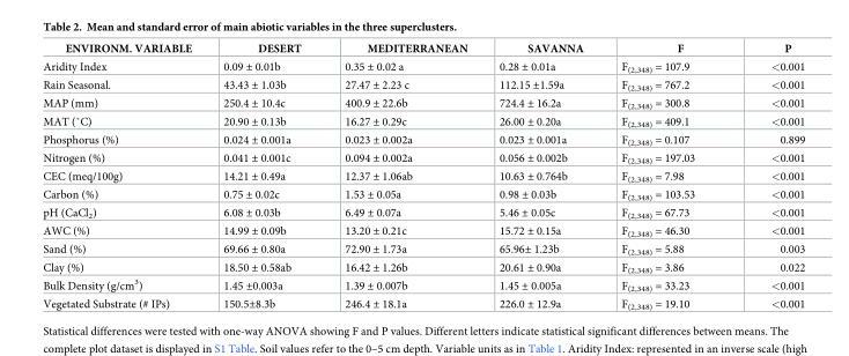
<table><thead><tr><td>ENVIRONM. VARIABLE</td><td>DESERT</td><td>MEDITERRANEAN</td><td>SAVANNA</td><td>F</td><td>P</td></tr></thead><tbody><tr><td>Aridity Index</td><td>0.09 ± 0.01b</td><td>0.35 ± 0.02 a</td><td>0.28 ± 0.01a</td><td>F<sub>(2,348)</sub> = 107.9</td><td>&lt;0.001</td></tr><tr><td>Rain Seasonal.</td><td>43.43 ± 1.03b</td><td>27.47 ± 2.23 c</td><td>112.15 ±1.59a</td><td>F<sub>(2,348)</sub> = 767.2</td><td>&lt;0.001</td></tr><tr><td>MAP (mm)</td><td>250.4 ± 10.4c</td><td>400.9 ± 22.6b</td><td>724.4 ± 16.2a</td><td>F<sub>(2,348)</sub> = 300.8</td><td>&lt;0.001</td></tr><tr><td>MAT (˚C)</td><td>20.90 ± 0.13b</td><td>16.27 ± 0.29c</td><td>26.00 ± 0.20a</td><td>F<sub>(2,348)</sub> = 409.1</td><td>&lt;0.001</td></tr><tr><td>Phosphorus (%)</td><td>0.024 ± 0.001a</td><td>0.023 ± 0.002a</td><td>0.023 ± 0.001a</td><td>F<sub>(2,348)</sub> = 0.107</td><td>0.899</td></tr><tr><td>Nitrogen (%)</td><td>0.041 ± 0.001c</td><td>0.094 ± 0.002a</td><td>0.056 ± 0.002b</td><td>F<sub>(2,348)</sub> = 197.03</td><td>&lt;0.001</td></tr><tr><td>CEC (meq/100g)</td><td>14.21 ± 0.49a</td><td>12.37 ± 1.06ab</td><td>10.63 ± 0.764b</td><td>F<sub>(2,348)</sub> = 7.98</td><td>&lt;0.001</td></tr><tr><td>Carbon (%)</td><td>0.75 ± 0.02c</td><td>1.53 ± 0.05a</td><td>0.98 ± 0.03b</td><td>F<sub>(2,348)</sub> = 103.53</td><td>&lt;0.001</td></tr><tr><td>pH (CaCl<sub>2</sub>)</td><td>6.08 ± 0.03b</td><td>6.49 ± 0.07a</td><td>5.46 ± 0.05c</td><td>F<sub>(2,348)</sub> = 67.73</td><td>&lt;0.001</td></tr><tr><td>AWC (%)</td><td>14.99 ± 0.09b</td><td>13.20 ± 0.21c</td><td>15.72 ± 0.15a</td><td>F<sub>(2,348)</sub> = 46.30</td><td>&lt;0.001</td></tr><tr><td>Sand (%)</td><td>69.66 ± 0.80a</td><td>72.90 ± 1.73a</td><td>65.96± 1.23b</td><td>F<sub>(2,348)</sub> = 5.88</td><td>0.003</td></tr><tr><td>Clay (%)</td><td>18.50 ± 0.58ab</td><td>16.42 ± 1.26b</td><td>20.61 ± 0.90a</td><td>F<sub>(2,348)</sub> = 3.86</td><td>0.022</td></tr><tr><td>Bulk Density (g/cm<sup>3</sup>)</td><td>1.45 ±0.003a</td><td>1.39 ± 0.007b</td><td>1.45 ± 0.005a</td><td>F<sub>(2,348)</sub> = 33.23</td><td>&lt;0.001</td></tr><tr><td>Vegetated Substrate (# IPs)</td><td>150.5±8.3b</td><td>246.4 ± 18.1a</td><td>226.0 ± 12.9a</td><td>F<sub>(2,348)</sub> = 19.10</td><td>&lt;0.001</td></tr></tbody></table>